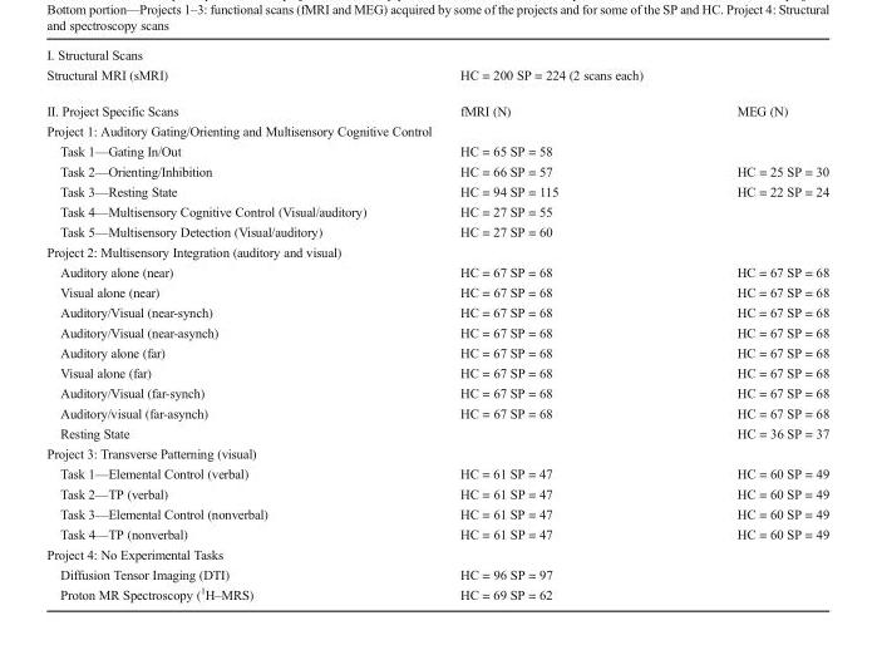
<table><tbody><tr><td colspan="3">I. Structural Scans</td></tr><tr><td>Structural MRI (sMRI)</td><td>HC = 200 SP = 224 (2 scans each)</td><td></td></tr><tr><td>II. Project Specific Scans</td><td>fMRI (N)</td><td>MEG (N)</td></tr><tr><td colspan="3">Project 1: Auditory Gating/Orienting and Multisensory Cognitive Control</td></tr><tr><td>Task 1—Gating In/Out</td><td>HC = 65 SP = 58</td><td></td></tr><tr><td>Task 2—Orienting/Inhibition</td><td>HC = 66 SP = 57</td><td>HC = 25 SP = 30</td></tr><tr><td>Task 3—Resting State</td><td>HC = 94 SP = 115</td><td>HC = 22 SP = 24</td></tr><tr><td>Task 4—Multisensory Cognitive Control (Visual/auditory)</td><td>HC = 27 SP = 55</td><td></td></tr><tr><td>Task 5—Multisensory Detection (Visual/auditory)</td><td>HC = 27 SP = 60</td><td></td></tr><tr><td colspan="3">Project 2: Multisensory Integration (auditory and visual)</td></tr><tr><td>Auditory alone (near)</td><td>HC = 67 SP = 68</td><td>HC = 67 SP = 68</td></tr><tr><td>Visual alone (near)</td><td>HC = 67 SP = 68</td><td>HC = 67 SP = 68</td></tr><tr><td>Auditory/Visual (near-synch)</td><td>HC = 67 SP = 68</td><td>HC = 67 SP = 68</td></tr><tr><td>Auditory/Visual (near-asynch)</td><td>HC = 67 SP = 68</td><td>HC = 67 SP = 68</td></tr><tr><td>Auditory alone (far)</td><td>HC = 67 SP = 68</td><td>HC = 67 SP = 68</td></tr><tr><td>Visual alone (far)</td><td>HC = 67 SP = 68</td><td>HC = 67 SP = 68</td></tr><tr><td>Auditory/Visual (far-synch)</td><td>HC = 67 SP = 68</td><td>HC = 67 SP = 68</td></tr><tr><td>Auditory/visual (far-asynch)</td><td>HC = 67 SP = 68</td><td>HC = 67 SP = 68</td></tr><tr><td>Resting State</td><td></td><td>HC = 36 SP = 37</td></tr><tr><td colspan="3">Project 3: Transverse Patterning (visual)</td></tr><tr><td>Task 1—Elemental Control (verbal)</td><td>HC = 61 SP = 47</td><td>HC = 60 SP = 49</td></tr><tr><td>Task 2—TP (verbal)</td><td>HC = 61 SP = 47</td><td>HC = 60 SP = 49</td></tr><tr><td>Task 3—Elemental Control (nonverbal)</td><td>HC = 61 SP = 47</td><td>HC = 60 SP = 49</td></tr><tr><td>Task 4—TP (nonverbal)</td><td>HC = 61 SP = 47</td><td>HC = 60 SP = 49</td></tr><tr><td colspan="3">Project 4: No Experimental Tasks</td></tr><tr><td>Diffusion Tensor Imaging (DTI)</td><td>HC = 96 SP = 97</td><td></td></tr><tr><td>Proton MR Spectroscopy (<sup>1</sup>H–MRS)</td><td>HC = 69 SP = 62</td><td></td></tr></tbody></table>